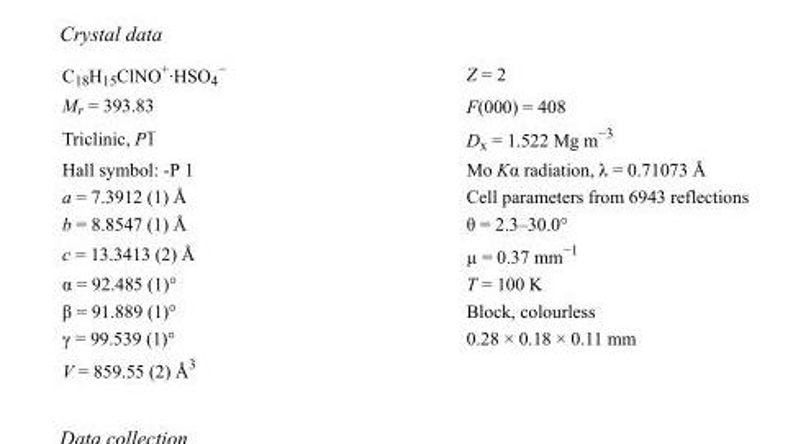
<table><tbody><tr><td>C<sub>18</sub>H<sub>15</sub>ClNO<sup>+</sup>·HSO<sub>4</sub> <sup>−</sup></td><td>Z = 2</td></tr><tr><td>M<sub>r</sub> = 393.83</td><td>F(000) = 408</td></tr><tr><td>Triclinic, P1</td><td>D<sub>x</sub> = 1.522 Mg m<sup>−3</sup></td></tr><tr><td>Hall symbol: -P 1</td><td>Mo Kα radiation, λ = 0.71073 Å</td></tr><tr><td>a = 7.3912 (1) Å</td><td>Cell parameters from 6943 reflections</td></tr><tr><td>b = 8.8547 (1) Å</td><td>θ = 2.3–30.0°</td></tr><tr><td>c = 13.3413 (2) Å</td><td>µ = 0.37 mm<sup>−1</sup></td></tr><tr><td>α = 92.485 (1)°</td><td>T = 100 K</td></tr><tr><td>β = 91.889 (1)°</td><td>Block, colourless</td></tr><tr><td>γ = 99.539 (1)°</td><td>0.28 × 0.18 × 0.11 mm</td></tr><tr><td>V = 859.55 (2) Å<sup>3</sup></td><td></td></tr></tbody></table>